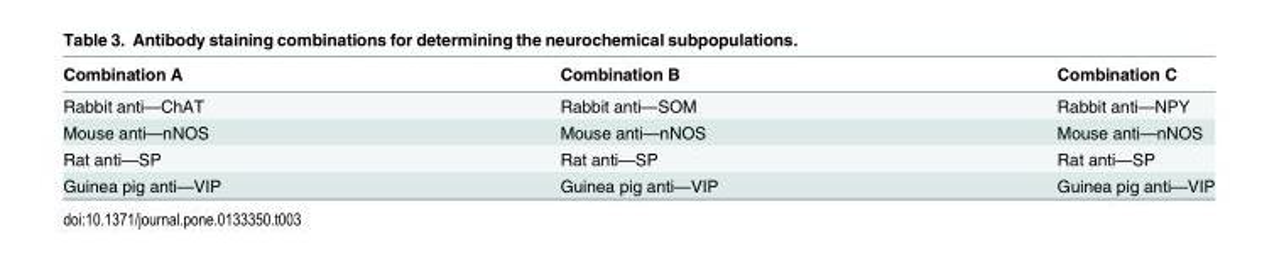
<table><thead><tr><td>Combination A</td><td>Combination B</td><td>Combination C</td></tr></thead><tbody><tr><td>Rabbit anti—ChAT</td><td>Rabbit anti—SOM</td><td>Rabbit anti—NPY</td></tr><tr><td>Mouse anti—nNOS</td><td>Mouse anti—nNOS</td><td>Mouse anti—nNOS</td></tr><tr><td>Rat anti—SP</td><td>Rat anti—SP</td><td>Rat anti—SP</td></tr><tr><td>Guinea pig anti—VIP</td><td>Guinea pig anti—VIP</td><td>Guinea pig anti—VIP</td></tr></tbody></table>